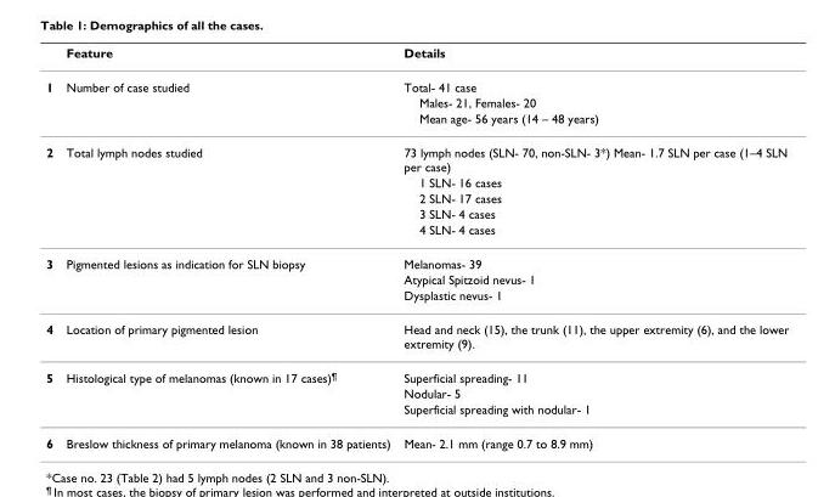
<table><thead><tr><td></td><td>Feature</td><td>Details</td></tr></thead><tbody><tr><td rowspan="3">1</td><td>Number of case studied</td><td>Total- 41 case</td></tr><tr><td></td><td>Males- 21, Females- 20</td></tr><tr><td></td><td>Mean age- 56 years (14 – 48 years)</td></tr><tr><td rowspan="5">2</td><td>Total lymph nodes studied</td><td>73 lymph nodes (SLN- 70, non-SLN- 3*) Mean- 1.7 SLN per case (1–4 SLN per case)</td></tr><tr><td></td><td>1 SLN- 16 cases</td></tr><tr><td></td><td>2 SLN- 17 cases</td></tr><tr><td></td><td>3 SLN- 4 cases</td></tr><tr><td></td><td>4 SLN- 4 cases</td></tr><tr><td rowspan="3">3</td><td>Pigmented lesions as indication for SLN biopsy</td><td>Melanomas- 39</td></tr><tr><td></td><td>Atypical Spitzoid nevus- 1</td></tr><tr><td></td><td>Dysplastic nevus- 1</td></tr><tr><td>4</td><td>Location of primary pigmented lesion</td><td>Head and neck (15), the trunk (11), the upper extremity (6), and the lower extremity (9).</td></tr><tr><td rowspan="3">5</td><td>Histological type of melanomas (known in 17 cases)<sup>¶</sup></td><td>Superficial spreading- 11</td></tr><tr><td></td><td>Nodular- 5</td></tr><tr><td></td><td>Superficial spreading with nodular- 1</td></tr><tr><td>6</td><td>Breslow thickness of primary melanoma (known in 38 patients)</td><td>Mean- 2.1 mm (range 0.7 to 8.9 mm)</td></tr></tbody></table>